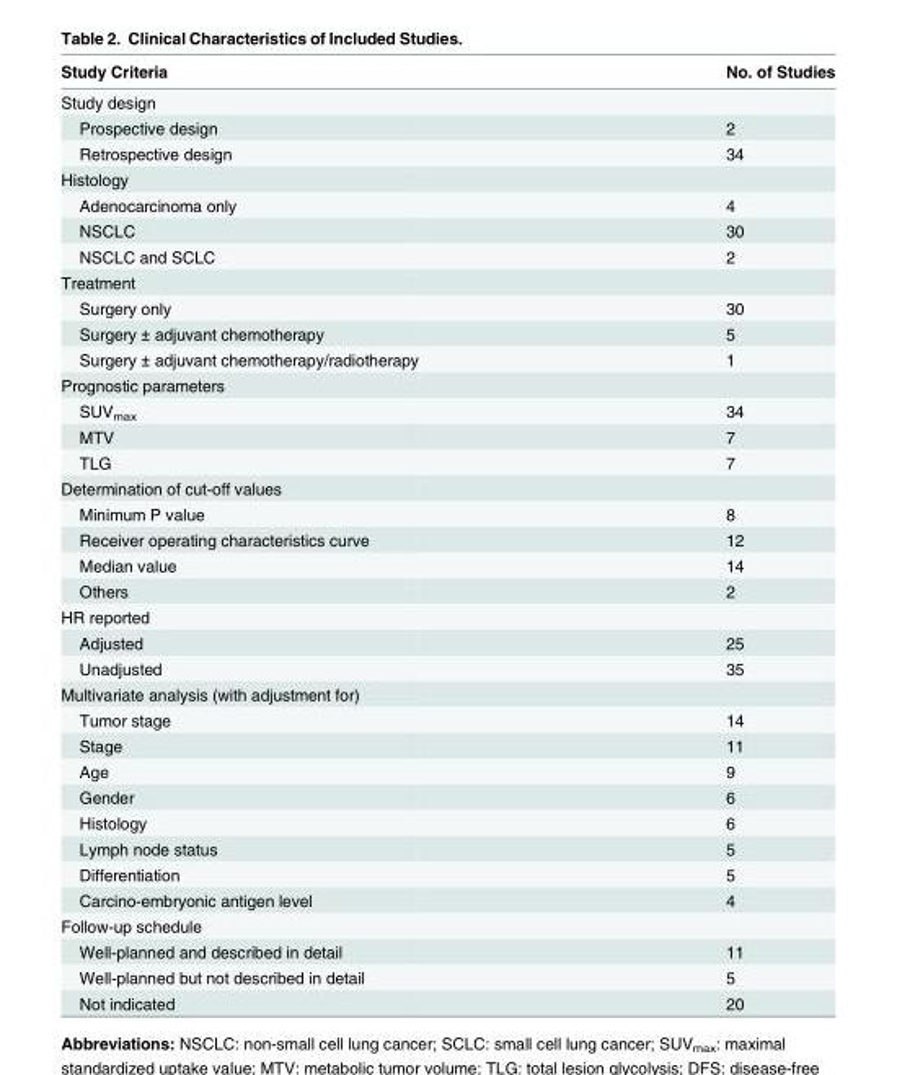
<table><thead><tr><td>Study Criteria</td><td>No. of Studies</td></tr></thead><tbody><tr><td colspan="2">Study design</td></tr><tr><td>Prospective design</td><td>2</td></tr><tr><td>Retrospective design</td><td>34</td></tr><tr><td colspan="2">Histology</td></tr><tr><td>Adenocarcinoma only</td><td>4</td></tr><tr><td>NSCLC</td><td>30</td></tr><tr><td>NSCLC and SCLC</td><td>2</td></tr><tr><td colspan="2">Treatment</td></tr><tr><td>Surgery only</td><td>30</td></tr><tr><td>Surgery ± adjuvant chemotherapy</td><td>5</td></tr><tr><td>Surgery ± adjuvant chemotherapy/radiotherapy</td><td>1</td></tr><tr><td colspan="2">Prognostic parameters</td></tr><tr><td>SUV<sub>max</sub></td><td>34</td></tr><tr><td>MTV</td><td>7</td></tr><tr><td>TLG</td><td>7</td></tr><tr><td colspan="2">Determination of cut-off values</td></tr><tr><td>Minimum P value</td><td>8</td></tr><tr><td>Receiver operating characteristics curve</td><td>12</td></tr><tr><td>Median value</td><td>14</td></tr><tr><td>Others</td><td>2</td></tr><tr><td colspan="2">HR reported</td></tr><tr><td>Adjusted</td><td>25</td></tr><tr><td>Unadjusted</td><td>35</td></tr><tr><td colspan="2">Multivariate analysis (with adjustment for)</td></tr><tr><td>Tumor stage</td><td>14</td></tr><tr><td>Stage</td><td>11</td></tr><tr><td>Age</td><td>9</td></tr><tr><td>Gender</td><td>6</td></tr><tr><td>Histology</td><td>6</td></tr><tr><td>Lymph node status</td><td>5</td></tr><tr><td>Differentiation</td><td>5</td></tr><tr><td>Carcino-embryonic antigen level</td><td>4</td></tr><tr><td colspan="2">Follow-up schedule</td></tr><tr><td>Well-planned and described in detail</td><td>11</td></tr><tr><td>Well-planned but not described in detail</td><td>5</td></tr><tr><td>Not indicated</td><td>20</td></tr></tbody></table>